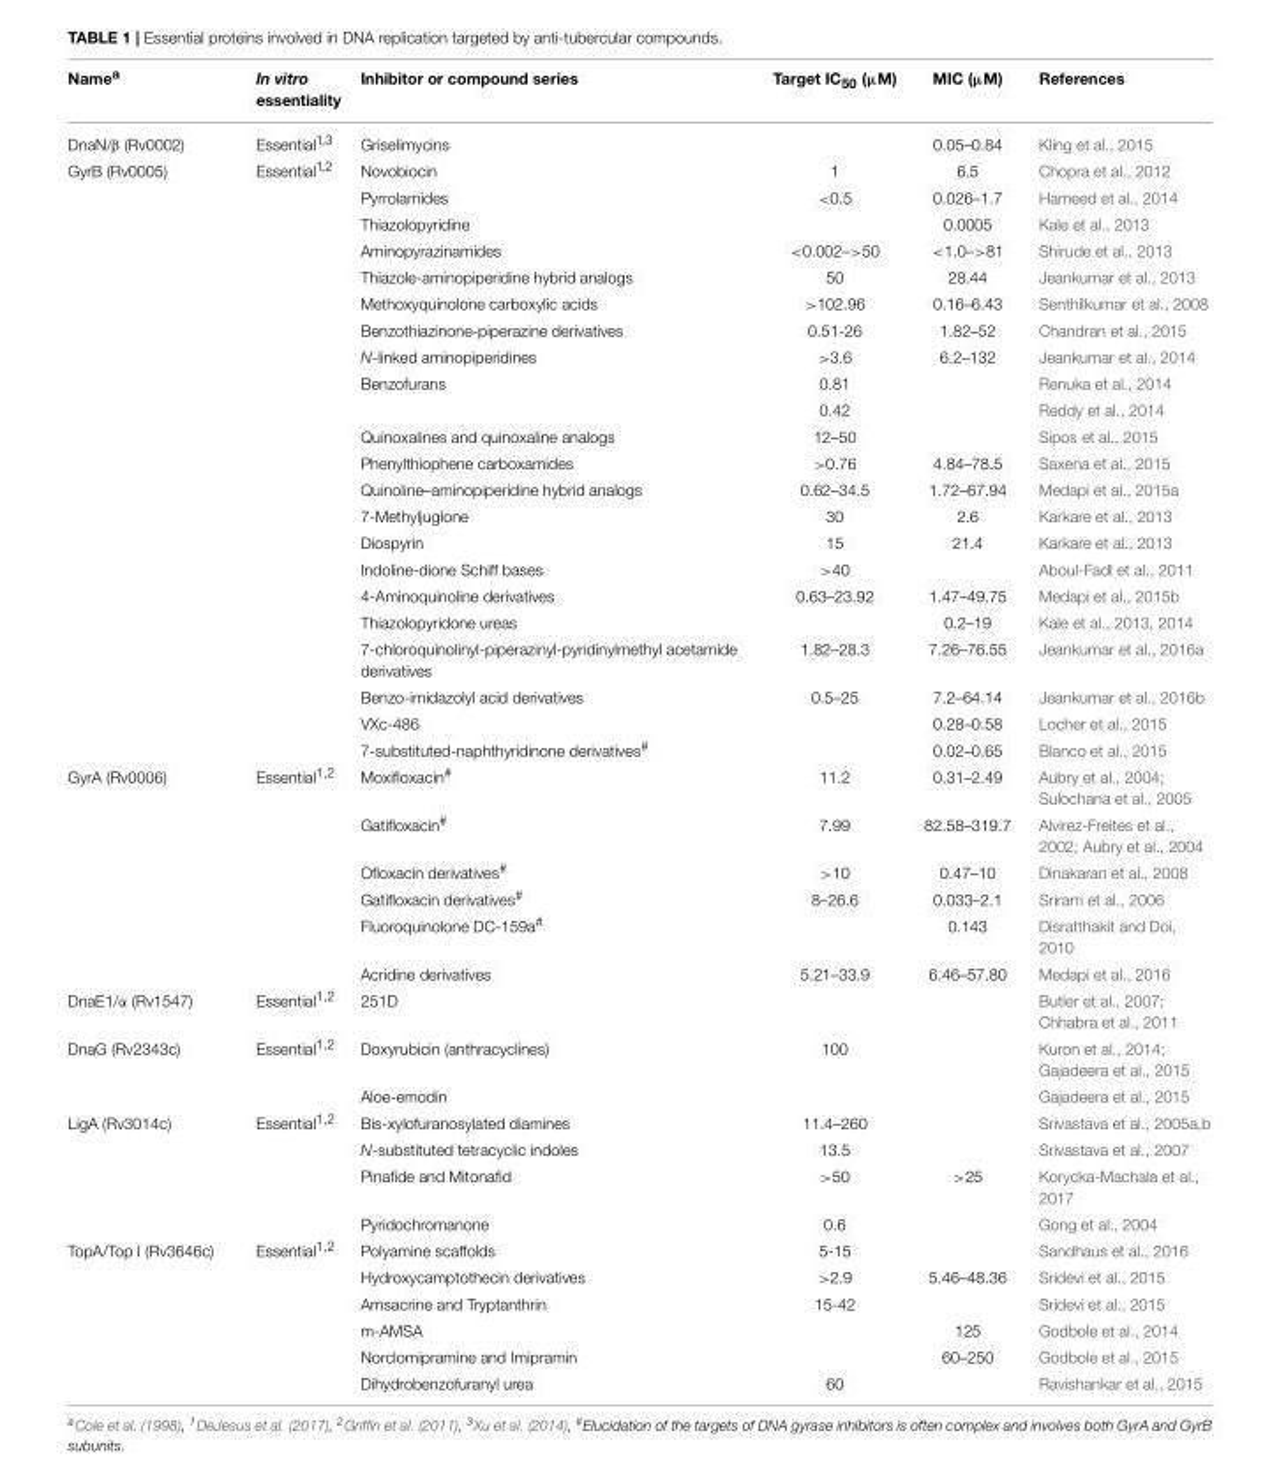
<table><thead><tr><td>Name<sup>a</sup></td><td>In vitro essentiality</td><td>Inhibitor or compound series</td><td>Target IC<sub>50</sub> (µM)</td><td>MIC (µM)</td><td>References</td></tr></thead><tbody><tr><td>DnaN/β (Rv0002)</td><td>Essential<sup>1,3</sup></td><td>Griselimycins</td><td></td><td>0.05–0.84</td><td>Kling et al., 2015</td></tr><tr><td rowspan="22">GyrB (Rv0005)</td><td>Essential<sup>1,2</sup></td><td>Novobiocin</td><td>1</td><td>6.5</td><td>Chopra et al., 2012</td></tr><tr><td></td><td>Pyrrolamides</td><td>&lt;0.5</td><td>0.026–1.7</td><td>Hameed et al., 2014</td></tr><tr><td></td><td>Thiazolopyridine</td><td></td><td>0.0005</td><td>Kale et al., 2013</td></tr><tr><td></td><td>Aminopyrazinamides</td><td>&lt;0.002–&gt;50</td><td>&lt;1.0–&gt;81</td><td>Shirude et al., 2013</td></tr><tr><td></td><td>Thiazole-aminopiperidine hybrid analogs</td><td>50</td><td>28.44</td><td>Jeankumar et al., 2013</td></tr><tr><td></td><td>Methoxyquinolone carboxylic acids</td><td>&gt;102.96</td><td>0.16–6.43</td><td>Senthilkumar et al., 2008</td></tr><tr><td></td><td>Benzothiazinone-piperazine derivatives</td><td>0.51-26</td><td>1.82–52</td><td>Chandran et al., 2015</td></tr><tr><td></td><td>N-linked aminopiperidines</td><td>&gt;3.6</td><td>6.2–132</td><td>Jeankumar et al., 2014</td></tr><tr><td></td><td>Benzofurans</td><td>0.81</td><td></td><td>Renuka et al., 2014</td></tr><tr><td></td><td></td><td>0.42</td><td></td><td>Reddy et al., 2014</td></tr><tr><td></td><td>Quinoxalines and quinoxaline analogs</td><td>12–50</td><td></td><td>Sipos et al., 2015</td></tr><tr><td></td><td>Phenylthiophene carboxamides</td><td>&gt;0.76</td><td>4.84–78.5</td><td>Saxena et al., 2015</td></tr><tr><td></td><td>Quinoline–aminopiperidine hybrid analogs</td><td>0.62–34.5</td><td>1.72–67.94</td><td>Medapi et al., 2015a</td></tr><tr><td></td><td>7-Methyljuglone</td><td>30</td><td>2.6</td><td>Karkare et al., 2013</td></tr><tr><td></td><td>Diospyrin</td><td>15</td><td>21.4</td><td>Karkare et al., 2013</td></tr><tr><td></td><td>Indoline-dione Schiff bases</td><td>&gt;40</td><td></td><td>Aboul-Fadl et al., 2011</td></tr><tr><td></td><td>4-Aminoquinoline derivatives</td><td>0.63–23.92</td><td>1.47–49.75</td><td>Medapi et al., 2015b</td></tr><tr><td></td><td>Thiazolopyridone ureas</td><td></td><td>0.2–19</td><td>Kale et al., 2013, 2014</td></tr><tr><td></td><td>7-chloroquinolinyl-piperazinyl-pyridinylmethyl acetamide derivatives</td><td>1.82–28.3</td><td>7.26–76.55</td><td>Jeankumar et al., 2016a</td></tr><tr><td></td><td>Benzo-imidazolyl acid derivatives</td><td>0.5–25</td><td>7.2–64.14</td><td>Jeankumar et al., 2016b</td></tr><tr><td></td><td>VXc-486</td><td></td><td>0.28–0.58</td><td>Locher et al., 2015</td></tr><tr><td></td><td>7-substituted-naphthyridinone derivatives<sup>#</sup></td><td></td><td>0.02–0.65</td><td>Blanco et al., 2015</td></tr><tr><td rowspan="6">GyrA (Rv0006)</td><td>Essential<sup>1,2</sup></td><td>Moxifloxacin<sup>#</sup></td><td>11.2</td><td>0.31–2.49</td><td>Aubry et al., 2004; Sulochana et al., 2005</td></tr><tr><td></td><td>Gatifloxacin<sup>#</sup></td><td>7.99</td><td>82.58–319.7</td><td>Alvirez-Freites et al., 2002; Aubry et al., 2004</td></tr><tr><td></td><td>Ofloxacin derivatives<sup>#</sup></td><td>&gt;10</td><td>0.47–10</td><td>Dinakaran et al., 2008</td></tr><tr><td></td><td>Gatifloxacin derivatives<sup>#</sup></td><td>8–26.6</td><td>0.033–2.1</td><td>Sriram et al., 2006</td></tr><tr><td></td><td>Fluoroquinolone DC-159a<sup>#</sup></td><td></td><td>0.143</td><td>Disratthakit and Doi, 2010</td></tr><tr><td></td><td>Acridine derivatives</td><td>5.21–33.9</td><td>6.46–57.80</td><td>Medapi et al., 2016</td></tr><tr><td>DnaE1/α (Rv1547)</td><td>Essential<sup>1,2</sup></td><td>251D</td><td></td><td></td><td>Butler et al., 2007; Chhabra et al., 2011</td></tr><tr><td rowspan="2">DnaG (Rv2343c)</td><td>Essential<sup>1,2</sup></td><td>Doxyrubicin (anthracyclines)</td><td>100</td><td></td><td>Kuron et al., 2014; Gajadeera et al., 2015</td></tr><tr><td></td><td>Aloe-emodin</td><td></td><td></td><td>Gajadeera et al., 2015</td></tr><tr><td rowspan="4">LigA (Rv3014c)</td><td>Essential<sup>1,2</sup></td><td>Bis-xylofuranosylated diamines</td><td>11.4–260</td><td></td><td>Srivastava et al., 2005a,b</td></tr><tr><td></td><td>N-substituted tetracyclic indoles</td><td>13.5</td><td></td><td>Srivastava et al., 2007</td></tr><tr><td></td><td>Pinafide and Mitonafid</td><td>&gt;50</td><td>&gt;25</td><td>Korycka-Machala et al., 2017</td></tr><tr><td></td><td>Pyridochromanone</td><td>0.6</td><td></td><td>Gong et al., 2004</td></tr><tr><td rowspan="6">TopA/Top I (Rv3646c)</td><td>Essential<sup>1,2</sup></td><td>Polyamine scaffolds</td><td>5-15</td><td></td><td>Sandhaus et al., 2016</td></tr><tr><td></td><td>Hydroxycamptothecin derivatives</td><td>&gt;2.9</td><td>5.46–48.36</td><td>Sridevi et al., 2015</td></tr><tr><td></td><td>Amsacrine and Tryptanthrin</td><td>15-42</td><td></td><td>Sridevi et al., 2015</td></tr><tr><td></td><td>m-AMSA</td><td></td><td>125</td><td>Godbole et al., 2014</td></tr><tr><td></td><td>Norclomipramine and Imipramin</td><td></td><td>60–250</td><td>Godbole et al., 2015</td></tr><tr><td></td><td>Dihydrobenzofuranyl urea</td><td>60</td><td></td><td>Ravishankar et al., 2015</td></tr></tbody></table>